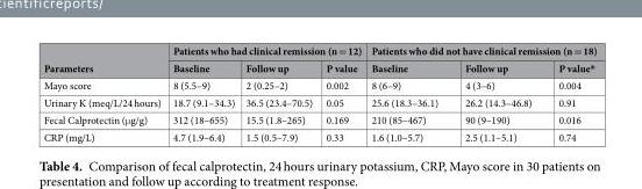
<table><thead><tr><td rowspan="2">Parameters</td><td colspan="3">Patients who had clinical remission (n = 12)</td><td colspan="3">Patients who did not have clinical remission (n = 18)</td></tr><tr><td>Baseline</td><td>Follow up</td><td>P value</td><td>Baseline</td><td>Follow up</td><td>P value*</td></tr></thead><tbody><tr><td>Mayo score</td><td>8 (5.5–9)</td><td>2 (0.25–2)</td><td>0.002</td><td>8 (6–9)</td><td>4 (3–6)</td><td>0.004</td></tr><tr><td>Urinary K (meq/L/24 hours)</td><td>18.7 (9.1–34.3)</td><td>36.5 (23.4–70.5)</td><td>0.05</td><td>25.6 (18.3–36.1)</td><td>26.2 (14.3–46.8)</td><td>0.91</td></tr><tr><td>Fecal Calprotectin (μg/g)</td><td>312 (18–655)</td><td>15.5 (1.8–265)</td><td>0.169</td><td>210 (85–467)</td><td>90 (9–190)</td><td>0.016</td></tr><tr><td>CRP (mg/L)</td><td>4.7 (1.9–6.4)</td><td>1.5 (0.5–7.9)</td><td>0.33</td><td>1.6 (1.0–5.7)</td><td>2.5 (1.1–5.1)</td><td>0.74</td></tr></tbody></table>